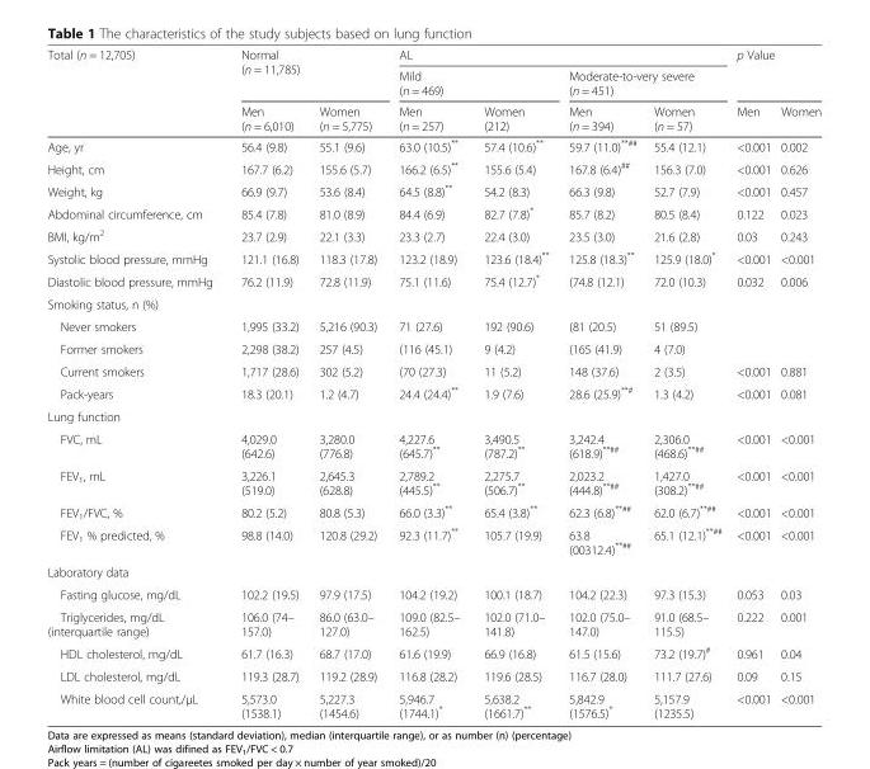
<table><thead><tr><td rowspan="3">Total (n = 12,705)</td><td rowspan="2" colspan="2">Normal (n = 11,785)</td><td colspan="4">AL</td><td rowspan="2" colspan="2">p Value</td></tr><tr><td colspan="2">Mild (n = 469)</td><td colspan="2">Moderate-to-very severe (n = 451)</td></tr><tr><td>Men (n = 6,010)</td><td>Women (n = 5,775)</td><td>Men (n = 257)</td><td>Women (212)</td><td>Men (n = 394)</td><td>Women (n = 57)</td><td>Men</td><td>Women</td></tr></thead><tbody><tr><td>Age, yr</td><td>56.4 (9.8)</td><td>55.1 (9.6)</td><td>63.0 (10.5)**</td><td>57.4 (10.6)**</td><td>59.7 (11.0)<sup>**##</sup></td><td>55.4 (12.1)</td><td>&lt;0.001</td><td>0.002</td></tr><tr><td>Height, cm</td><td>167.7 (6.2)</td><td>155.6 (5.7)</td><td>166.2 (6.5)**</td><td>155.6 (5.4)</td><td>167.8 (6.4)<sup>##</sup></td><td>156.3 (7.0)</td><td>&lt;0.001</td><td>0.626</td></tr><tr><td>Weight, kg</td><td>66.9 (9.7)</td><td>53.6 (8.4)</td><td>64.5 (8.8)**</td><td>54.2 (8.3)</td><td>66.3 (9.8)</td><td>52.7 (7.9)</td><td>&lt;0.001</td><td>0.457</td></tr><tr><td>Abdominal circumference, cm</td><td>85.4 (7.8)</td><td>81.0 (8.9)</td><td>84.4 (6.9)</td><td>82.7 (7.8)*</td><td>85.7 (8.2)</td><td>80.5 (8.4)</td><td>0.122</td><td>0.023</td></tr><tr><td>BMI, kg/m<sup>2</sup></td><td>23.7 (2.9)</td><td>22.1 (3.3)</td><td>23.3 (2.7)</td><td>22.4 (3.0)</td><td>23.5 (3.0)</td><td>21.6 (2.8)</td><td>0.03</td><td>0.243</td></tr><tr><td>Systolic blood pressure, mmHg</td><td>121.1 (16.8)</td><td>118.3 (17.8)</td><td>123.2 (18.9)</td><td>123.6 (18.4)**</td><td>125.8 (18.3)**</td><td>125.9 (18.0)*</td><td>&lt;0.001</td><td>&lt;0.001</td></tr><tr><td>Diastolic blood pressure, mmHg</td><td>76.2 (11.9)</td><td>72.8 (11.9)</td><td>75.1 (11.6)</td><td>75.4 (12.7)*</td><td>(74.8 (12.1)</td><td>72.0 (10.3)</td><td>0.032</td><td>0.006</td></tr><tr><td colspan="9">Smoking status, n (%)</td></tr><tr><td>Never smokers</td><td>1,995 (33.2)</td><td>5,216 (90.3)</td><td>71 (27.6)</td><td>192 (90.6)</td><td>(81 (20.5)</td><td>51 (89.5)</td><td></td><td></td></tr><tr><td>Former smokers</td><td>2,298 (38.2)</td><td>257 (4.5)</td><td>(116 (45.1)</td><td>9 (4.2)</td><td>(165 (41.9)</td><td>4 (7.0)</td><td></td><td></td></tr><tr><td>Current smokers</td><td>1,717 (28.6)</td><td>302 (5.2)</td><td>(70 (27.3)</td><td>11 (5.2)</td><td>148 (37.6)</td><td>2 (3.5)</td><td>&lt;0.001</td><td>0.881</td></tr><tr><td>Pack-years</td><td>18.3 (20.1)</td><td>1.2 (4.7)</td><td>24.4 (24.4)**</td><td>1.9 (7.6)</td><td>28.6 (25.9)<sup>**#</sup></td><td>1.3 (4.2)</td><td>&lt;0.001</td><td>0.081</td></tr><tr><td colspan="9">Lung function</td></tr><tr><td>FVC, mL</td><td>4,029.0 (642.6)</td><td>3,280.0 (776.8)</td><td>4,227.6 (645.7)**</td><td>3,490.5 (787.2)**</td><td>3,242.4 (618.9)<sup>**##</sup></td><td>2,306.0 (468.6)<sup>**##</sup></td><td>&lt;0.001</td><td>&lt;0.001</td></tr><tr><td>FEV<sub>1</sub>, mL</td><td>3,226.1 (519.0)</td><td>2,645.3 (628.8)</td><td>2,789.2 (445.5)**</td><td>2,275.7 (506.7)**</td><td>2,023.2 (444.8)<sup>**##</sup></td><td>1,427.0 (308.2)<sup>**##</sup></td><td>&lt;0.001</td><td>&lt;0.001</td></tr><tr><td>FEV<sub>1</sub>/FVC, %</td><td>80.2 (5.2)</td><td>80.8 (5.3)</td><td>66.0 (3.3)**</td><td>65.4 (3.8)**</td><td>62.3 (6.8)<sup>**##</sup></td><td>62.0 (6.7)<sup>**##</sup></td><td>&lt;0.001</td><td>&lt;0.001</td></tr><tr><td>FEV<sub>1</sub> % predicted, %</td><td>98.8 (14.0)</td><td>120.8 (29.2)</td><td>92.3 (11.7)**</td><td>105.7 (19.9)</td><td>63.8 (00312.4)<sup>**##</sup></td><td>65.1 (12.1)<sup>**##</sup></td><td>&lt;0.001</td><td>&lt;0.001</td></tr><tr><td colspan="9">Laboratory data</td></tr><tr><td>Fasting glucose, mg/dL</td><td>102.2 (19.5)</td><td>97.9 (17.5)</td><td>104.2 (19.2)</td><td>100.1 (18.7)</td><td>104.2 (22.3)</td><td>97.3 (15.3)</td><td>0.053</td><td>0.03</td></tr><tr><td>Triglycerides, mg/dL (interquartile range)</td><td>106.0 (74– 157.0)</td><td>86.0 (63.0– 127.0)</td><td>109.0 (82.5– 162.5)</td><td>102.0 (71.0– 141.8)</td><td>102.0 (75.0– 147.0)</td><td>91.0 (68.5– 115.5)</td><td>0.222</td><td>0.001</td></tr><tr><td>HDL cholesterol, mg/dL</td><td>61.7 (16.3)</td><td>68.7 (17.0)</td><td>61.6 (19.9)</td><td>66.9 (16.8)</td><td>61.5 (15.6)</td><td>73.2 (19.7)<sup>#</sup></td><td>0.961</td><td>0.04</td></tr><tr><td>LDL cholesterol, mg/dL</td><td>119.3 (28.7)</td><td>119.2 (28.9)</td><td>116.8 (28.2)</td><td>119.6 (28.5)</td><td>116.7 (28.0)</td><td>111.7 (27.6)</td><td>0.09</td><td>0.15</td></tr><tr><td>White blood cell count,/μL</td><td>5,573.0 (1538.1)</td><td>5,227.3 (1454.6)</td><td>5,946.7 (1744.1)*</td><td>5,638.2 (1661.7)**</td><td>5,842.9 (1576.5)*</td><td>5,157.9 (1235.5)</td><td>&lt;0.001</td><td>&lt;0.001</td></tr></tbody></table>